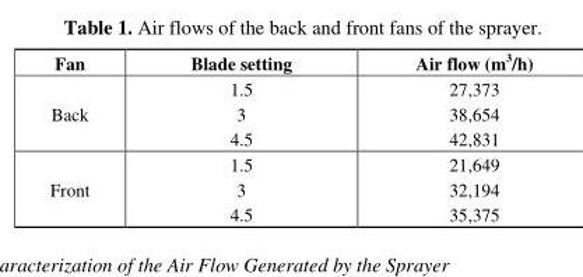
<table><thead><tr><td>Fan</td><td>Blade setting</td><td>Air flow (m<sup>3</sup>/h)</td></tr></thead><tbody><tr><td rowspan="3">Back</td><td>1.5</td><td>27,373</td></tr><tr><td>3</td><td>38,654</td></tr><tr><td>4.5</td><td>42,831</td></tr><tr><td rowspan="3">Front</td><td>1.5</td><td>21,649</td></tr><tr><td>3</td><td>32,194</td></tr><tr><td>4.5</td><td>35,375</td></tr></tbody></table>